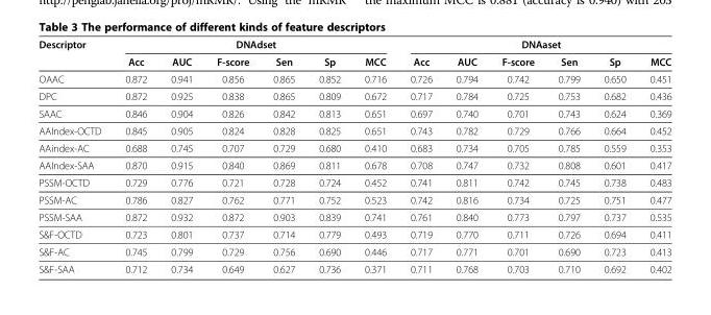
<table><thead><tr><td rowspan="2">Descriptor</td><td colspan="6">DNAdset</td><td colspan="6">DNAaset</td></tr><tr><td>Acc</td><td>AUC</td><td>F-score</td><td>Sen</td><td>Sp</td><td>MCC</td><td>Acc</td><td>AUC</td><td>F-score</td><td>Sen</td><td>Sp</td><td>MCC</td></tr></thead><tbody><tr><td>OAAC</td><td>0.872</td><td>0.941</td><td>0.856</td><td>0.865</td><td>0.852</td><td>0.716</td><td>0.726</td><td>0.794</td><td>0.742</td><td>0.799</td><td>0.650</td><td>0.451</td></tr><tr><td>DPC</td><td>0.872</td><td>0.925</td><td>0.838</td><td>0.865</td><td>0.809</td><td>0.672</td><td>0.717</td><td>0.784</td><td>0.725</td><td>0.753</td><td>0.682</td><td>0.436</td></tr><tr><td>SAAC</td><td>0.846</td><td>0.904</td><td>0.826</td><td>0.842</td><td>0.813</td><td>0.651</td><td>0.697</td><td>0.740</td><td>0.701</td><td>0.743</td><td>0.624</td><td>0.369</td></tr><tr><td>AAIndex-OCTD</td><td>0.845</td><td>0.905</td><td>0.824</td><td>0.828</td><td>0.825</td><td>0.651</td><td>0.743</td><td>0.782</td><td>0.729</td><td>0.766</td><td>0.664</td><td>0.452</td></tr><tr><td>AAindex-AC</td><td>0.688</td><td>0.745</td><td>0.707</td><td>0.729</td><td>0.680</td><td>0.410</td><td>0.683</td><td>0.734</td><td>0.705</td><td>0.785</td><td>0.559</td><td>0.353</td></tr><tr><td>AAIndex-SAA</td><td>0.870</td><td>0.915</td><td>0.840</td><td>0.869</td><td>0.811</td><td>0.678</td><td>0.708</td><td>0.747</td><td>0.732</td><td>0.808</td><td>0.601</td><td>0.417</td></tr><tr><td>PSSM-OCTD</td><td>0.729</td><td>0.776</td><td>0.721</td><td>0.728</td><td>0.724</td><td>0.452</td><td>0.741</td><td>0.811</td><td>0.742</td><td>0.745</td><td>0.738</td><td>0.483</td></tr><tr><td>PSSM-AC</td><td>0.786</td><td>0.827</td><td>0.762</td><td>0.771</td><td>0.752</td><td>0.523</td><td>0.742</td><td>0.816</td><td>0.734</td><td>0.725</td><td>0.751</td><td>0.477</td></tr><tr><td>PSSM-SAA</td><td>0.872</td><td>0.932</td><td>0.872</td><td>0.903</td><td>0.839</td><td>0.741</td><td>0.761</td><td>0.840</td><td>0.773</td><td>0.797</td><td>0.737</td><td>0.535</td></tr><tr><td>S&amp;F-OCTD</td><td>0.723</td><td>0.801</td><td>0.737</td><td>0.714</td><td>0.779</td><td>0.493</td><td>0.719</td><td>0.770</td><td>0.711</td><td>0.726</td><td>0.694</td><td>0.411</td></tr><tr><td>S&amp;F-AC</td><td>0.745</td><td>0.799</td><td>0.729</td><td>0.756</td><td>0.690</td><td>0.446</td><td>0.717</td><td>0.771</td><td>0.701</td><td>0.690</td><td>0.723</td><td>0.413</td></tr><tr><td>S&amp;F-SAA</td><td>0.712</td><td>0.734</td><td>0.649</td><td>0.627</td><td>0.736</td><td>0.371</td><td>0.711</td><td>0.768</td><td>0.703</td><td>0.710</td><td>0.692</td><td>0.402</td></tr></tbody></table>